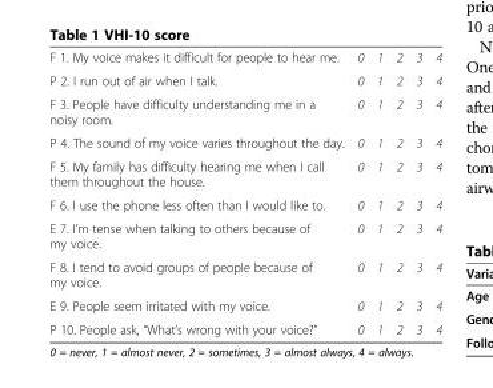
<table><tbody><tr><td>F 1. My voice makes it difficult for people to hear me.</td><td>0</td><td>1</td><td>2</td><td>3</td><td>4</td></tr><tr><td>P 2. I run out of air when I talk.</td><td>0</td><td>1</td><td>2</td><td>3</td><td>4</td></tr><tr><td>F 3. People have difficulty understanding me in a noisy room.</td><td>0</td><td>1</td><td>2</td><td>3</td><td>4</td></tr><tr><td>P 4. The sound of my voice varies throughout the day.</td><td>0</td><td>1</td><td>2</td><td>3</td><td>4</td></tr><tr><td>F 5. My family has difficulty hearing me when I call them throughout the house.</td><td>0</td><td>1</td><td>2</td><td>3</td><td>4</td></tr><tr><td>F 6. I use the phone less often than I would like to.</td><td>0</td><td>1</td><td>2</td><td>3</td><td>4</td></tr><tr><td>E 7. I’m tense when talking to others because of my voice.</td><td>0</td><td>1</td><td>2</td><td>3</td><td>4</td></tr><tr><td>F 8. I tend to avoid groups of people because of my voice.</td><td>0</td><td>1</td><td>2</td><td>3</td><td>4</td></tr><tr><td>E 9. People seem irritated with my voice.</td><td>0</td><td>1</td><td>2</td><td>3</td><td>4</td></tr><tr><td>P 10. People ask, “What’s wrong with your voice?”</td><td>0</td><td>1</td><td>2</td><td>3</td><td>4</td></tr></tbody></table>